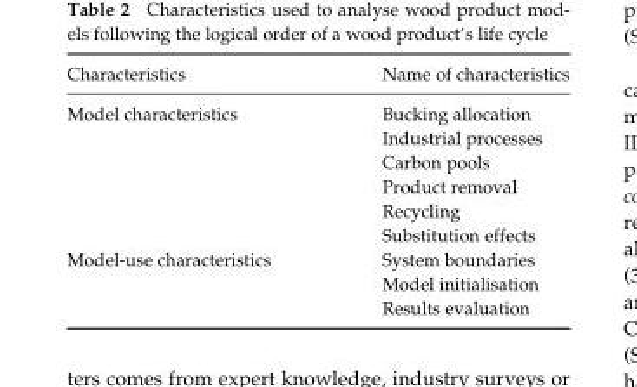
<table><thead><tr><td>Characteristics</td><td>Name of characteristics</td></tr></thead><tbody><tr><td rowspan="6">Model characteristics</td><td>Bucking allocation</td></tr><tr><td>Industrial processes</td></tr><tr><td>Carbon pools</td></tr><tr><td>Product removal</td></tr><tr><td>Recycling</td></tr><tr><td>Substitution effects</td></tr><tr><td rowspan="3">Model-use characteristics</td><td>System boundaries</td></tr><tr><td>Model initialisation</td></tr><tr><td>Results evaluation</td></tr></tbody></table>